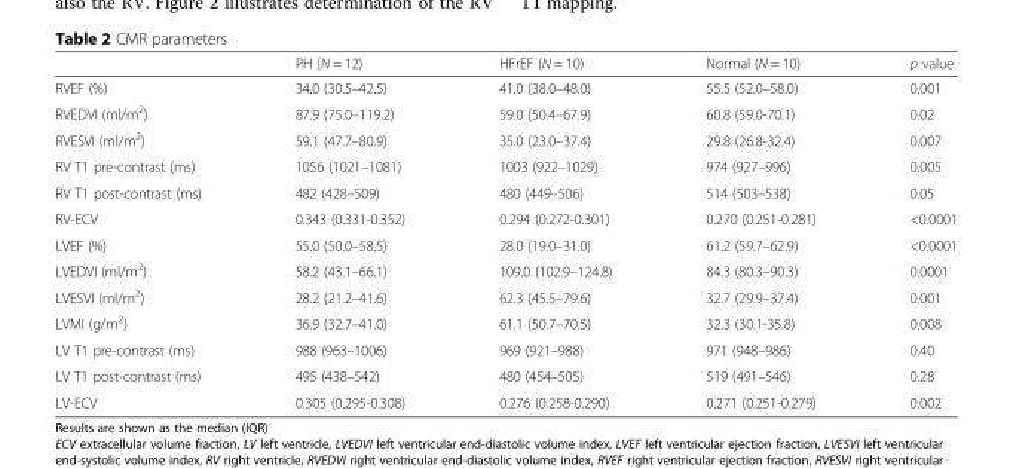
<table><thead><tr><td></td><td>PH (N = 12)</td><td>HFrEF (N = 10)</td><td>Normal (N = 10)</td><td>p value</td></tr></thead><tbody><tr><td>RVEF (%)</td><td>34.0 (30.5–42.5)</td><td>41.0 (38.0–48.0)</td><td>55.5 (52.0–58.0)</td><td>0.001</td></tr><tr><td>RVEDVI (ml/m<sup>2</sup>)</td><td>87.9 (75.0–119.2)</td><td>59.0 (50.4–67.9)</td><td>60.8 (59.0-70.1)</td><td>0.02</td></tr><tr><td>RVESVI (ml/m<sup>2</sup>)</td><td>59.1 (47.7–80.9)</td><td>35.0 (23.0–37.4)</td><td>29.8 (26.8-32.4)</td><td>0.007</td></tr><tr><td>RV T1 pre-contrast (ms)</td><td>1056 (1021–1081)</td><td>1003 (922–1029)</td><td>974 (927–996)</td><td>0.005</td></tr><tr><td>RV T1 post-contrast (ms)</td><td>482 (428–509)</td><td>480 (449–506)</td><td>514 (503–538)</td><td>0.05</td></tr><tr><td>RV-ECV</td><td>0.343 (0.331-0.352)</td><td>0.294 (0.272-0.301)</td><td>0.270 (0.251-0.281)</td><td>&lt;0.0001</td></tr><tr><td>LVEF (%)</td><td>55.0 (50.0–58.5)</td><td>28.0 (19.0–31.0)</td><td>61.2 (59.7–62.9)</td><td>&lt;0.0001</td></tr><tr><td>LVEDVI (ml/m<sup>2</sup>)</td><td>58.2 (43.1–66.1)</td><td>109.0 (102.9–124.8)</td><td>84.3 (80.3–90.3)</td><td>0.0001</td></tr><tr><td>LVESVI (ml/m<sup>2</sup>)</td><td>28.2 (21.2–41.6)</td><td>62.3 (45.5–79.6)</td><td>32.7 (29.9–37.4)</td><td>0.001</td></tr><tr><td>LVMI (g/m<sup>2</sup>)</td><td>36.9 (32.7–41.0)</td><td>61.1 (50.7–70.5)</td><td>32.3 (30.1-35.8)</td><td>0.008</td></tr><tr><td>LV T1 pre-contrast (ms)</td><td>988 (963–1006)</td><td>969 (921–988)</td><td>971 (948–986)</td><td>0.40</td></tr><tr><td>LV T1 post-contrast (ms)</td><td>495 (438–542)</td><td>480 (454–505)</td><td>519 (491–546)</td><td>0.28</td></tr><tr><td>LV-ECV</td><td>0.305 (0.295-0.308)</td><td>0.276 (0.258-0.290)</td><td>0.271 (0.251-0.279)</td><td>0.002</td></tr></tbody></table>